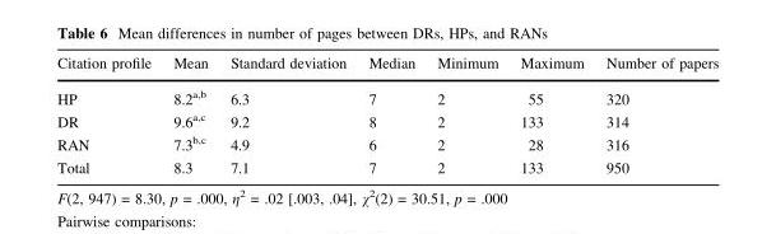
<table><thead><tr><td>Citation profile</td><td>Mean</td><td>Standard deviation</td><td>Median</td><td>Minimum</td><td>Maximum</td><td>Number of papers</td></tr></thead><tbody><tr><td>HP</td><td>8.2<sup>a,b</sup></td><td>6.3</td><td>7</td><td>2</td><td>55</td><td>320</td></tr><tr><td>DR</td><td>9.6<sup>a,c</sup></td><td>9.2</td><td>8</td><td>2</td><td>133</td><td>314</td></tr><tr><td>RAN</td><td>7.3<sup>b,c</sup></td><td>4.9</td><td>6</td><td>2</td><td>28</td><td>316</td></tr><tr><td>Total</td><td>8.3</td><td>7.1</td><td>7</td><td>2</td><td>133</td><td>950</td></tr></tbody></table>